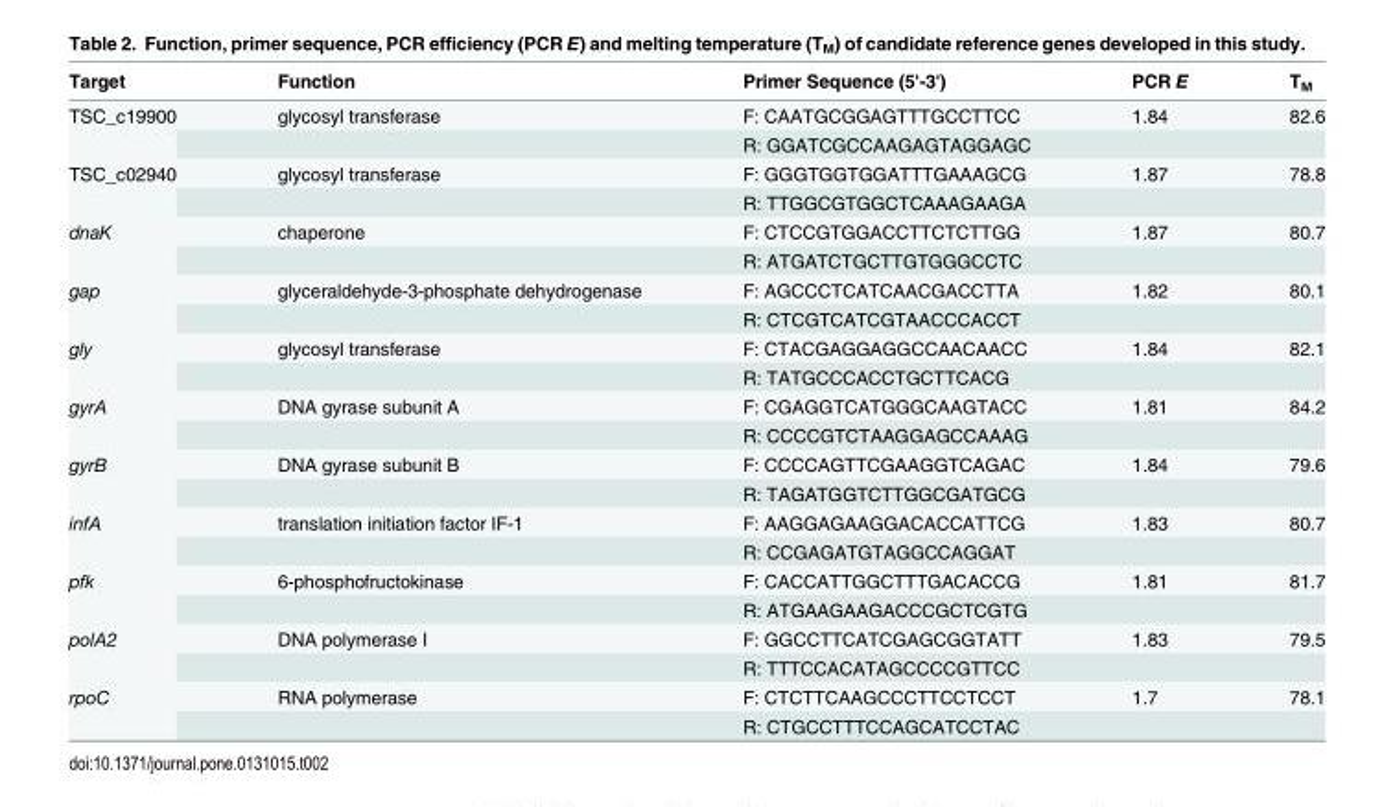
<table><thead><tr><td>Target</td><td>Function</td><td>Primer Sequence (5&#x27;-3&#x27;)</td><td>PCR E</td><td>T<sub>M</sub></td></tr></thead><tbody><tr><td rowspan="2">TSC_c19900</td><td>glycosyl transferase</td><td>F: CAATGCGGAGTTTGCCTTCC</td><td>1.84</td><td>82.6</td></tr><tr><td></td><td>R: GGATCGCCAAGAGTAGGAGC</td><td></td><td></td></tr><tr><td rowspan="2">TSC_c02940</td><td>glycosyl transferase</td><td>F: GGGTGGTGGATTTGAAAGCG</td><td>1.87</td><td>78.8</td></tr><tr><td></td><td>R: TTGGCGTGGCTCAAAGAAGA</td><td></td><td></td></tr><tr><td rowspan="2">dnaK</td><td>chaperone</td><td>F: CTCCGTGGACCTTCTCTTGG</td><td>1.87</td><td>80.7</td></tr><tr><td></td><td>R: ATGATCTGCTTGTGGGCCTC</td><td></td><td></td></tr><tr><td rowspan="2">gap</td><td>glyceraldehyde-3-phosphate dehydrogenase</td><td>F: AGCCCTCATCAACGACCTTA</td><td>1.82</td><td>80.1</td></tr><tr><td></td><td>R: CTCGTCATCGTAACCCACCT</td><td></td><td></td></tr><tr><td rowspan="2">gly</td><td>glycosyl transferase</td><td>F: CTACGAGGAGGCCAACAACC</td><td>1.84</td><td>82.1</td></tr><tr><td></td><td>R: TATGCCCACCTGCTTCACG</td><td></td><td></td></tr><tr><td rowspan="2">gyrA</td><td>DNA gyrase subunit A</td><td>F: CGAGGTCATGGGCAAGTACC</td><td>1.81</td><td>84.2</td></tr><tr><td></td><td>R: CCCCGTCTAAGGAGCCAAAG</td><td></td><td></td></tr><tr><td rowspan="2">gyrB</td><td>DNA gyrase subunit B</td><td>F: CCCCAGTTCGAAGGTCAGAC</td><td>1.84</td><td>79.6</td></tr><tr><td></td><td>R: TAGATGGTCTTGGCGATGCG</td><td></td><td></td></tr><tr><td rowspan="2">infA</td><td>translation initiation factor IF-1</td><td>F: AAGGAGAAGGACACCATTCG</td><td>1.83</td><td>80.7</td></tr><tr><td></td><td>R: CCGAGATGTAGGCCAGGAT</td><td></td><td></td></tr><tr><td rowspan="2">pfk</td><td>6-phosphofructokinase</td><td>F: CACCATTGGCTTTGACACCG</td><td>1.81</td><td>81.7</td></tr><tr><td></td><td>R: ATGAAGAAGACCCGCTCGTG</td><td></td><td></td></tr><tr><td rowspan="2">polA2</td><td>DNA polymerase I</td><td>F: GGCCTTCATCGAGCGGTATT</td><td>1.83</td><td>79.5</td></tr><tr><td></td><td>R: TTTCCACATAGCCCCGTTCC</td><td></td><td></td></tr><tr><td rowspan="2">rpoC</td><td>RNA polymerase</td><td>F: CTCTTCAAGCCCTTCCTCCT</td><td>1.7</td><td>78.1</td></tr><tr><td></td><td>R: CTGCCTTTCCAGCATCCTAC</td><td></td><td></td></tr></tbody></table>